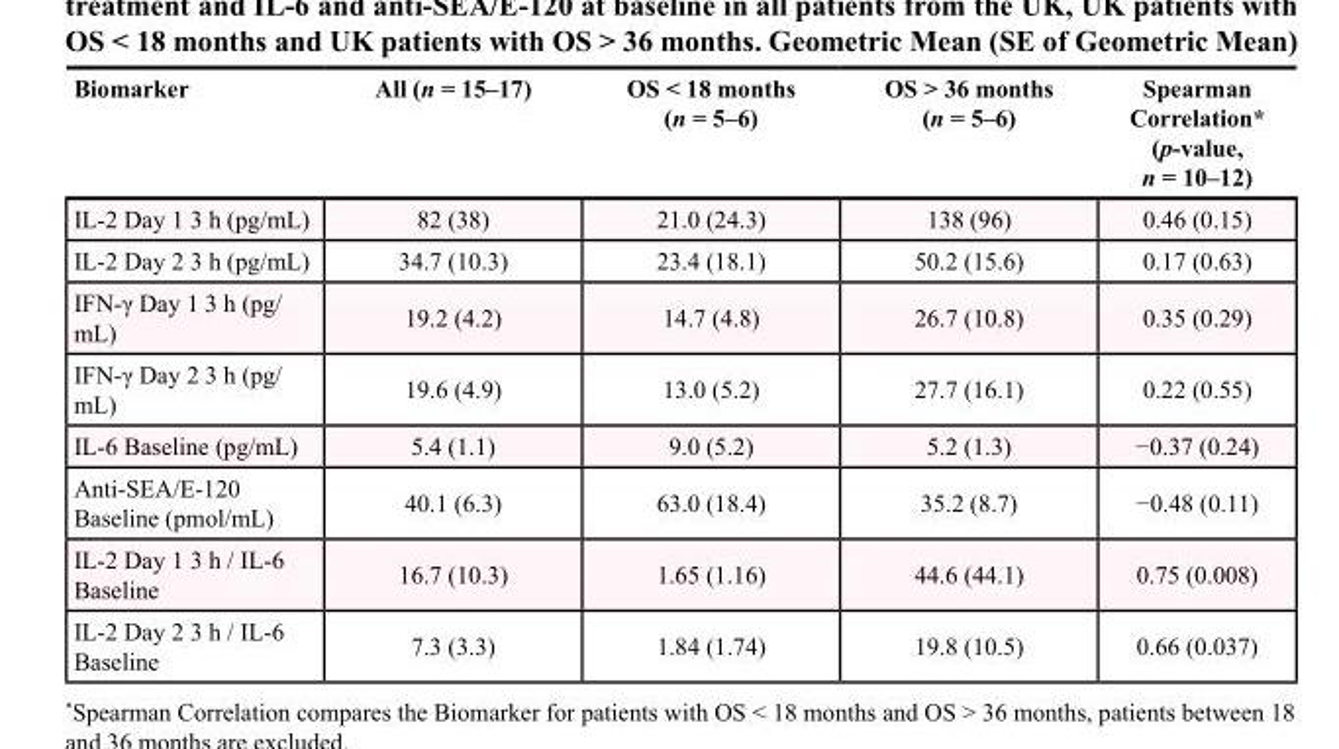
<table><thead><tr><td>Biomarker</td><td>All (n = 15–17)</td><td>OS &lt; 18 months (n = 5–6)</td><td>OS &gt; 36 months (n = 5–6)</td><td>Spearman Correlation* (p-value, n = 10–12)</td></tr></thead><tbody><tr><td>IL-2 Day 1 3 h (pg/mL)</td><td>82 (38)</td><td>21.0 (24.3)</td><td>138 (96)</td><td>0.46 (0.15)</td></tr><tr><td>IL-2 Day 2 3 h (pg/mL)</td><td>34.7 (10.3)</td><td>23.4 (18.1)</td><td>50.2 (15.6)</td><td>0.17 (0.63)</td></tr><tr><td>IFN-γ Day 1 3 h (pg/ mL)</td><td>19.2 (4.2)</td><td>14.7 (4.8)</td><td>26.7 (10.8)</td><td>0.35 (0.29)</td></tr><tr><td>IFN-γ Day 2 3 h (pg/ mL)</td><td>19.6 (4.9)</td><td>13.0 (5.2)</td><td>27.7 (16.1)</td><td>0.22 (0.55)</td></tr><tr><td>IL-6 Baseline (pg/mL)</td><td>5.4 (1.1)</td><td>9.0 (5.2)</td><td>5.2 (1.3)</td><td>−0.37 (0.24)</td></tr><tr><td>Anti-SEA/E-120 Baseline (pmol/mL)</td><td>40.1 (6.3)</td><td>63.0 (18.4)</td><td>35.2 (8.7)</td><td>−0.48 (0.11)</td></tr><tr><td>IL-2 Day 1 3 h / IL-6 Baseline</td><td>16.7 (10.3)</td><td>1.65 (1.16)</td><td>44.6 (44.1)</td><td>0.75 (0.008)</td></tr><tr><td>IL-2 Day 2 3 h / IL-6 Baseline</td><td>7.3 (3.3)</td><td>1.84 (1.74)</td><td>19.8 (10.5)</td><td>0.66 (0.037)</td></tr></tbody></table>